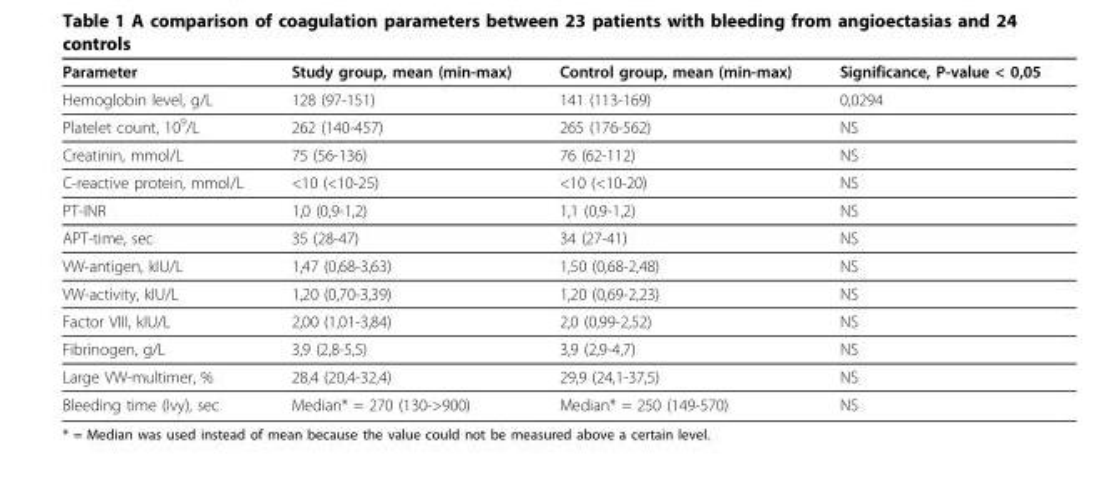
<table><thead><tr><td>Parameter</td><td>Study group, mean (min-max)</td><td>Control group, mean (min-max)</td><td>Significance, P-value &lt; 0,05</td></tr></thead><tbody><tr><td>Hemoglobin level, g/L</td><td>128 (97-151)</td><td>141 (113-169)</td><td>0,0294</td></tr><tr><td>Platelet count, 10<sup>9</sup>/L</td><td>262 (140-457)</td><td>265 (176-562)</td><td>NS</td></tr><tr><td>Creatinin, mmol/L</td><td>75 (56-136)</td><td>76 (62-112)</td><td>NS</td></tr><tr><td>C-reactive protein, mmol/L</td><td>&lt;10 (&lt;10-25)</td><td>&lt;10 (&lt;10-20)</td><td>NS</td></tr><tr><td>PT-INR</td><td>1,0 (0,9-1,2)</td><td>1,1 (0,9-1,2)</td><td>NS</td></tr><tr><td>APT-time, sec</td><td>35 (28-47)</td><td>34 (27-41)</td><td>NS</td></tr><tr><td>VW-antigen, kIU/L</td><td>1,47 (0,68-3,63)</td><td>1,50 (0,68-2,48)</td><td>NS</td></tr><tr><td>VW-activity, kIU/L</td><td>1,20 (0,70-3,39)</td><td>1,20 (0,69-2,23)</td><td>NS</td></tr><tr><td>Factor VIII, kIU/L</td><td>2,00 (1,01-3,84)</td><td>2,0 (0,99-2,52)</td><td>NS</td></tr><tr><td>Fibrinogen, g/L</td><td>3,9 (2,8-5,5)</td><td>3,9 (2,9-4,7)</td><td>NS</td></tr><tr><td>Large VW-multimer, %</td><td>28,4 (20,4-32,4)</td><td>29,9 (24,1-37,5)</td><td>NS</td></tr><tr><td>Bleeding time (Ivy), sec</td><td>Median* = 270 (130-&gt;900)</td><td>Median* = 250 (149-570)</td><td>NS</td></tr></tbody></table>